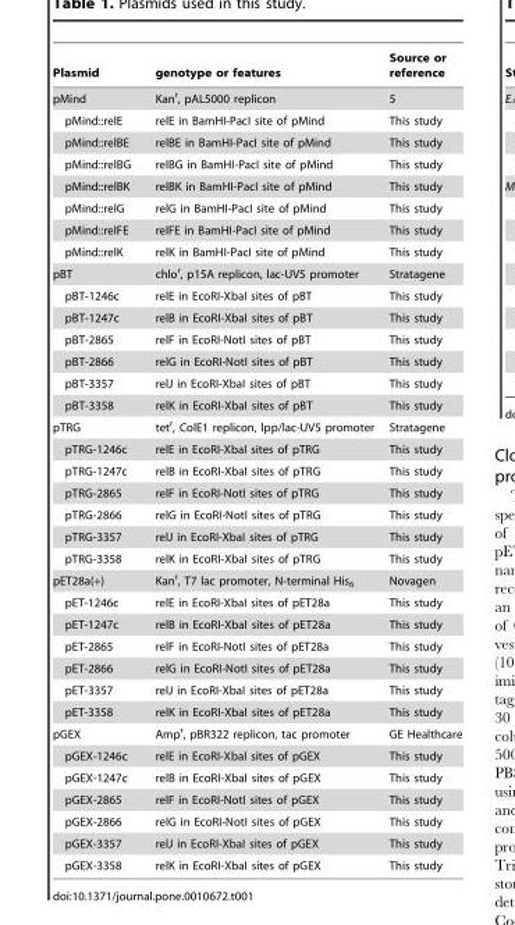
<table><thead><tr><td>Plasmid</td><td>genotype or features</td><td>Source or reference</td></tr></thead><tbody><tr><td>pMind</td><td>Kan<sup>r</sup>, pAL5000 replicon</td><td>5</td></tr><tr><td>pMind::relE</td><td>relE in BamHI-PacI site of pMind</td><td>This study</td></tr><tr><td>pMind::relBE</td><td>relBE in BamHI-PacI site of pMind</td><td>This study</td></tr><tr><td>pMind::relBG</td><td>relBG in BamHI-PacI site of pMind</td><td>This study</td></tr><tr><td>pMind::relBK</td><td>relBK in BamHI-PacI site of pMind</td><td>This study</td></tr><tr><td>pMind::relG</td><td>relG in BamHI-PacI site of pMind</td><td>This study</td></tr><tr><td>pMind::relFE</td><td>relFE in BamHI-PacI site of pMind</td><td>This study</td></tr><tr><td>pMind::relK</td><td>relK in BamHI-PacI site of pMind</td><td>This study</td></tr><tr><td>pBT</td><td>chlo<sup>r</sup>, p15A replicon, lac-UV5 promoter</td><td>Stratagene</td></tr><tr><td>pBT-1246c</td><td>relE in EcoRI-XbaI sites of pBT</td><td>This study</td></tr><tr><td>pBT-1247c</td><td>relB in EcoRI-XbaI sites of pBT</td><td>This study</td></tr><tr><td>pBT-2865</td><td>relF in EcoRI-NotI sites of pBT</td><td>This study</td></tr><tr><td>pBT-2866</td><td>relG in EcoRI-NotI sites of pBT</td><td>This study</td></tr><tr><td>pBT-3357</td><td>relJ in EcoRI-XbaI sites of pBT</td><td>This study</td></tr><tr><td>pBT-3358</td><td>relK in EcoRI-XbaI sites of pBT</td><td>This study</td></tr><tr><td>pTRG</td><td>tet<sup>r</sup>, ColE1 replicon, lpp/lac-UV5 promoter</td><td>Stratagene</td></tr><tr><td>pTRG-1246c</td><td>relE in EcoRI-XbaI sites of pTRG</td><td>This study</td></tr><tr><td>pTRG-1247c</td><td>relB in EcoRI-XbaI sites of pTRG</td><td>This study</td></tr><tr><td>pTRG-2865</td><td>relF in EcoRI-NotI sites of pTRG</td><td>This study</td></tr><tr><td>pTRG-2866</td><td>relG in EcoRI-NotI sites of pTRG</td><td>This study</td></tr><tr><td>pTRG-3357</td><td>relJ in EcoRI-XbaI sites of pTRG</td><td>This study</td></tr><tr><td>pTRG-3358</td><td>relK in EcoRI-XbaI sites of pTRG</td><td>This study</td></tr><tr><td>pET28a(+)</td><td>Kan<sup>r</sup>, T7 lac promoter, N-terminal His<sub>6</sub></td><td>Novagen</td></tr><tr><td>pET-1246c</td><td>relE in EcoRI-XbaI sites of pET28a</td><td>This study</td></tr><tr><td>pET-1247c</td><td>relB in EcoRI-XbaI sites of pET28a</td><td>This study</td></tr><tr><td>pET-2865</td><td>relF in EcoRI-NotI sites of pET28a</td><td>This study</td></tr><tr><td>pET-2866</td><td>relG in EcoRI-NotI sites of pET28a</td><td>This study</td></tr><tr><td>pET-3357</td><td>relJ in EcoRI-XbaI sites of pET28a</td><td>This study</td></tr><tr><td>pET-3358</td><td>relK in EcoRI-XbaI sites of pET28a</td><td>This study</td></tr><tr><td>pGEX</td><td>Amp<sup>r</sup>, pBR322 replicon, tac promoter</td><td>GE Healthcare</td></tr><tr><td>pGEX-1246c</td><td>relE in EcoRI-XbaI sites of pGEX</td><td>This study</td></tr><tr><td>pGEX-1247c</td><td>relB in EcoRI-XbaI sites of pGEX</td><td>This study</td></tr><tr><td>pGEX-2865</td><td>relF in EcoRI-NotI sites of pGEX</td><td>This study</td></tr><tr><td>pGEX-2866</td><td>relG in EcoRI-NotI sites of pGEX</td><td>This study</td></tr><tr><td>pGEX-3357</td><td>relJ in EcoRI-XbaI sites of pGEX</td><td>This study</td></tr><tr><td>pGEX-3358</td><td>relK in EcoRI-XbaI sites of pGEX</td><td>This study</td></tr></tbody></table>